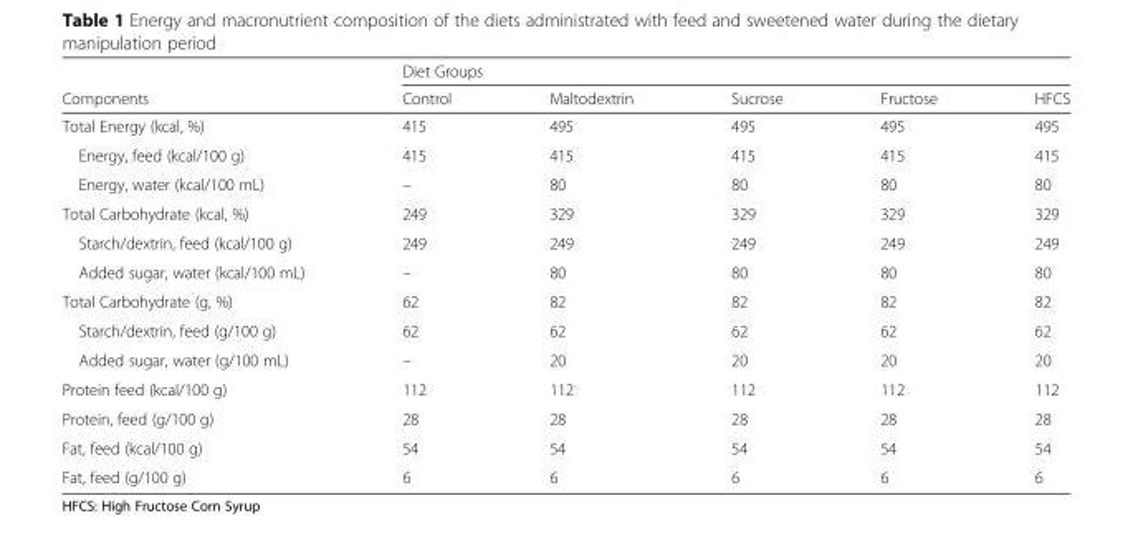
<table><thead><tr><td rowspan="2">Components</td><td colspan="5">Diet Groups</td></tr><tr><td>Control</td><td>Maltodextrin</td><td>Sucrose</td><td>Fructose</td><td>HFCS</td></tr></thead><tbody><tr><td>Total Energy (kcal, %)</td><td>415</td><td>495</td><td>495</td><td>495</td><td>495</td></tr><tr><td>Energy, feed (kcal/100 g)</td><td>415</td><td>415</td><td>415</td><td>415</td><td>415</td></tr><tr><td>Energy, water (kcal/100 mL)</td><td>–</td><td>80</td><td>80</td><td>80</td><td>80</td></tr><tr><td>Total Carbohydrate (kcal, %)</td><td>249</td><td>329</td><td>329</td><td>329</td><td>329</td></tr><tr><td>Starch/dextrin, feed (kcal/100 g)</td><td>249</td><td>249</td><td>249</td><td>249</td><td>249</td></tr><tr><td>Added sugar, water (kcal/100 mL)</td><td>–</td><td>80</td><td>80</td><td>80</td><td>80</td></tr><tr><td>Total Carbohydrate (g, %)</td><td>62</td><td>82</td><td>82</td><td>82</td><td>82</td></tr><tr><td>Starch/dextrin, feed (g/100 g)</td><td>62</td><td>62</td><td>62</td><td>62</td><td>62</td></tr><tr><td>Added sugar, water (g/100 mL)</td><td>–</td><td>20</td><td>20</td><td>20</td><td>20</td></tr><tr><td>Protein feed (kcal/100 g)</td><td>112</td><td>112</td><td>112</td><td>112</td><td>112</td></tr><tr><td>Protein, feed (g/100 g)</td><td>28</td><td>28</td><td>28</td><td>28</td><td>28</td></tr><tr><td>Fat, feed (kcal/100 g)</td><td>54</td><td>54</td><td>54</td><td>54</td><td>54</td></tr><tr><td>Fat, feed (g/100 g)</td><td>6</td><td>6</td><td>6</td><td>6</td><td>6</td></tr></tbody></table>